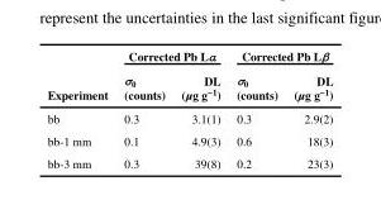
<table><thead><tr><td rowspan="2">Experiment</td><td colspan="2">Corrected Pb Lα</td><td colspan="2">Corrected Pb Lβ</td></tr><tr><td>σ<sub>0</sub> (counts)</td><td>DL (µg g<sup>−1</sup>)</td><td>σ<sub>0</sub> (counts)</td><td>DL (µg g<sup>−1</sup>)</td></tr></thead><tbody><tr><td>bb</td><td>0.3</td><td>3.1(1)</td><td>0.3</td><td>2.9(2)</td></tr><tr><td>bb-1 mm</td><td>0.1</td><td>4.9(3)</td><td>0.6</td><td>18(3)</td></tr><tr><td>bb-3 mm</td><td>0.3</td><td>39(8)</td><td>0.2</td><td>23(3)</td></tr></tbody></table>